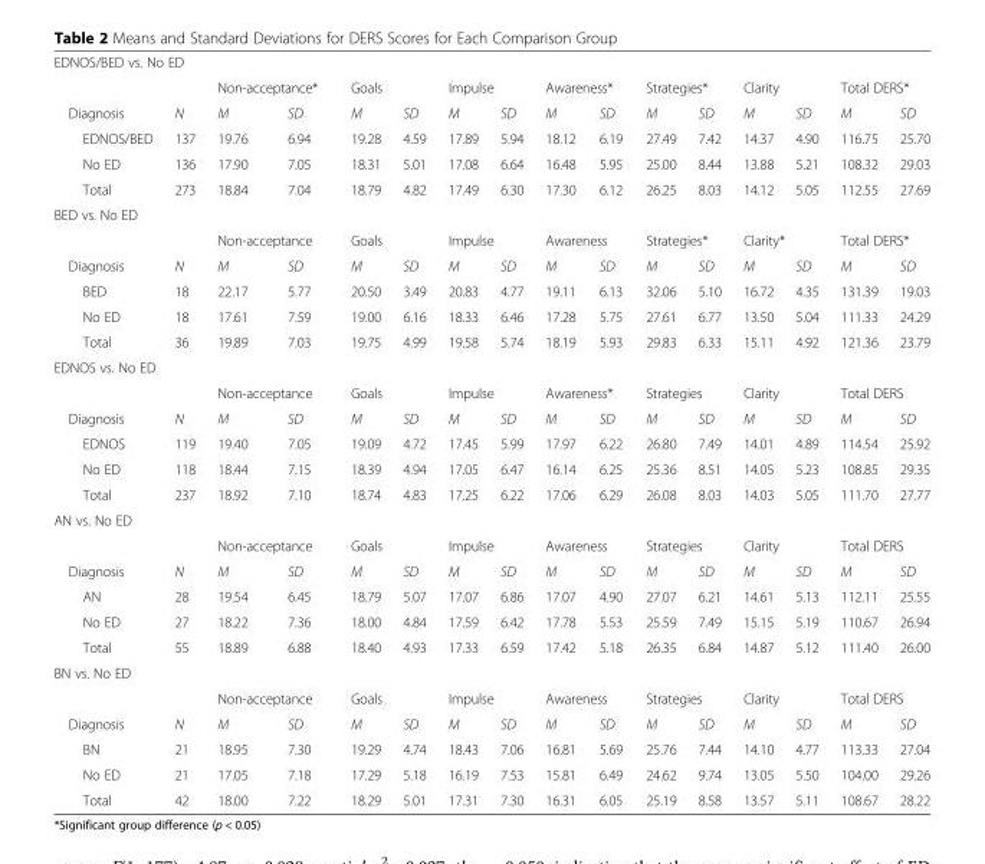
<table><tbody><tr><td colspan="16">EDNOS/BED vs. No ED</td></tr><tr><td></td><td></td><td colspan="2">Non-acceptance*</td><td colspan="2">Goals</td><td colspan="2">Impulse</td><td colspan="2">Awareness*</td><td colspan="2">Strategies*</td><td colspan="2">Clarity</td><td colspan="2">Total DERS*</td></tr><tr><td>Diagnosis</td><td>N</td><td>M</td><td>SD</td><td>M</td><td>SD</td><td>M</td><td>SD</td><td>M</td><td>SD</td><td>M</td><td>SD</td><td>M</td><td>SD</td><td>M</td><td>SD</td></tr><tr><td>EDNOS/BED</td><td>137</td><td>19.76</td><td>6.94</td><td>19.28</td><td>4.59</td><td>17.89</td><td>5.94</td><td>18.12</td><td>6.19</td><td>27.49</td><td>7.42</td><td>14.37</td><td>4.90</td><td>116.75</td><td>25.70</td></tr><tr><td>No ED</td><td>136</td><td>17.90</td><td>7.05</td><td>18.31</td><td>5.01</td><td>17.08</td><td>6.64</td><td>16.48</td><td>5.95</td><td>25.00</td><td>8.44</td><td>13.88</td><td>5.21</td><td>108.32</td><td>29.03</td></tr><tr><td>Total</td><td>273</td><td>18.84</td><td>7.04</td><td>18.79</td><td>4.82</td><td>17.49</td><td>6.30</td><td>17.30</td><td>6.12</td><td>26.25</td><td>8.03</td><td>14.12</td><td>5.05</td><td>112.55</td><td>27.69</td></tr><tr><td colspan="16">BED vs. No ED</td></tr><tr><td></td><td></td><td colspan="2">Non-acceptance</td><td colspan="2">Goals</td><td colspan="2">Impulse</td><td colspan="2">Awareness</td><td colspan="2">Strategies*</td><td colspan="2">Clarity*</td><td colspan="2">Total DERS*</td></tr><tr><td>Diagnosis</td><td>N</td><td>M</td><td>SD</td><td>M</td><td>SD</td><td>M</td><td>SD</td><td>M</td><td>SD</td><td>M</td><td>SD</td><td>M</td><td>SD</td><td>M</td><td>SD</td></tr><tr><td>BED</td><td>18</td><td>22.17</td><td>5.77</td><td>20.50</td><td>3.49</td><td>20.83</td><td>4.77</td><td>19.11</td><td>6.13</td><td>32.06</td><td>5.10</td><td>16.72</td><td>4.35</td><td>131.39</td><td>19.03</td></tr><tr><td>No ED</td><td>18</td><td>17.61</td><td>7.59</td><td>19.00</td><td>6.16</td><td>18.33</td><td>6.46</td><td>17.28</td><td>5.75</td><td>27.61</td><td>6.77</td><td>13.50</td><td>5.04</td><td>111.33</td><td>24.29</td></tr><tr><td>Total</td><td>36</td><td>19.89</td><td>7.03</td><td>19.75</td><td>4.99</td><td>19.58</td><td>5.74</td><td>18.19</td><td>5.93</td><td>29.83</td><td>6.33</td><td>15.11</td><td>4.92</td><td>121.36</td><td>23.79</td></tr><tr><td colspan="16">EDNOS vs. No ED</td></tr><tr><td></td><td></td><td colspan="2">Non-acceptance</td><td colspan="2">Goals</td><td colspan="2">Impulse</td><td colspan="2">Awareness*</td><td colspan="2">Strategies</td><td colspan="2">Clarity</td><td colspan="2">Total DERS</td></tr><tr><td>Diagnosis</td><td>N</td><td>M</td><td>SD</td><td>M</td><td>SD</td><td>M</td><td>SD</td><td>M</td><td>SD</td><td>M</td><td>SD</td><td>M</td><td>SD</td><td>M</td><td>SD</td></tr><tr><td>EDNOS</td><td>119</td><td>19.40</td><td>7.05</td><td>19.09</td><td>4.72</td><td>17.45</td><td>5.99</td><td>17.97</td><td>6.22</td><td>26.80</td><td>7.49</td><td>14.01</td><td>4.89</td><td>114.54</td><td>25.92</td></tr><tr><td>No ED</td><td>118</td><td>18.44</td><td>7.15</td><td>18.39</td><td>4.94</td><td>17.05</td><td>6.47</td><td>16.14</td><td>6.25</td><td>25.36</td><td>8.51</td><td>14.05</td><td>5.23</td><td>108.85</td><td>29.35</td></tr><tr><td>Total</td><td>237</td><td>18.92</td><td>7.10</td><td>18.74</td><td>4.83</td><td>17.25</td><td>6.22</td><td>17.06</td><td>6.29</td><td>26.08</td><td>8.03</td><td>14.03</td><td>5.05</td><td>111.70</td><td>27.77</td></tr><tr><td colspan="16">AN vs. No ED</td></tr><tr><td></td><td></td><td colspan="2">Non-acceptance</td><td colspan="2">Goals</td><td colspan="2">Impulse</td><td colspan="2">Awareness</td><td colspan="2">Strategies</td><td colspan="2">Clarity</td><td colspan="2">Total DERS</td></tr><tr><td>Diagnosis</td><td>N</td><td>M</td><td>SD</td><td>M</td><td>SD</td><td>M</td><td>SD</td><td>M</td><td>SD</td><td>M</td><td>SD</td><td>M</td><td>SD</td><td>M</td><td>SD</td></tr><tr><td>AN</td><td>28</td><td>19.54</td><td>6.45</td><td>18.79</td><td>5.07</td><td>17.07</td><td>6.86</td><td>17.07</td><td>4.90</td><td>27.07</td><td>6.21</td><td>14.61</td><td>5.13</td><td>112.11</td><td>25.55</td></tr><tr><td>No ED</td><td>27</td><td>18.22</td><td>7.36</td><td>18.00</td><td>4.84</td><td>17.59</td><td>6.42</td><td>17.78</td><td>5.53</td><td>25.59</td><td>7.49</td><td>15.15</td><td>5.19</td><td>110.67</td><td>26.94</td></tr><tr><td>Total</td><td>55</td><td>18.89</td><td>6.88</td><td>18.40</td><td>4.93</td><td>17.33</td><td>6.59</td><td>17.42</td><td>5.18</td><td>26.35</td><td>6.84</td><td>14.87</td><td>5.12</td><td>111.40</td><td>26.00</td></tr><tr><td colspan="16">BN vs. No ED</td></tr><tr><td></td><td></td><td colspan="2">Non-acceptance</td><td colspan="2">Goals</td><td colspan="2">Impulse</td><td colspan="2">Awareness</td><td colspan="2">Strategies</td><td colspan="2">Clarity</td><td colspan="2">Total DERS</td></tr><tr><td>Diagnosis</td><td>N</td><td>M</td><td>SD</td><td>M</td><td>SD</td><td>M</td><td>SD</td><td>M</td><td>SD</td><td>M</td><td>SD</td><td>M</td><td>SD</td><td>M</td><td>SD</td></tr><tr><td>BN</td><td>21</td><td>18.95</td><td>7.30</td><td>19.29</td><td>4.74</td><td>18.43</td><td>7.06</td><td>16.81</td><td>5.69</td><td>25.76</td><td>7.44</td><td>14.10</td><td>4.77</td><td>113.33</td><td>27.04</td></tr><tr><td>No ED</td><td>21</td><td>17.05</td><td>7.18</td><td>17.29</td><td>5.18</td><td>16.19</td><td>7.53</td><td>15.81</td><td>6.49</td><td>24.62</td><td>9.74</td><td>13.05</td><td>5.50</td><td>104.00</td><td>29.26</td></tr><tr><td>Total</td><td>42</td><td>18.00</td><td>7.22</td><td>18.29</td><td>5.01</td><td>17.31</td><td>7.30</td><td>16.31</td><td>6.05</td><td>25.19</td><td>8.58</td><td>13.57</td><td>5.11</td><td>108.67</td><td>28.22</td></tr></tbody></table>